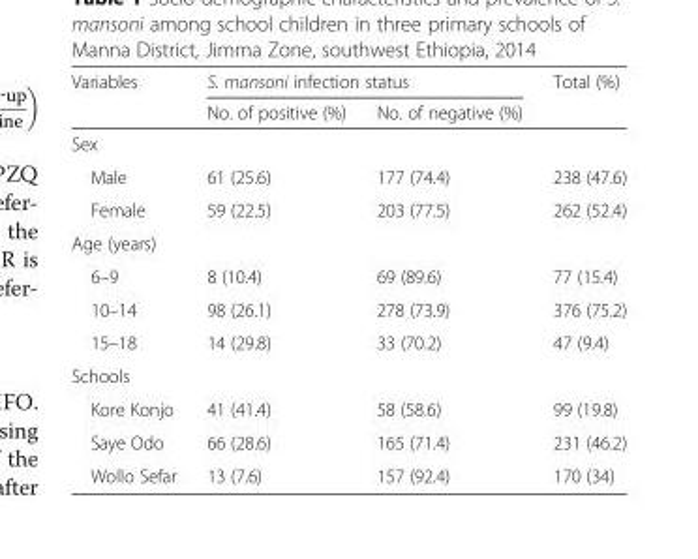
<table><thead><tr><td rowspan="2">Variables</td><td colspan="2">S. mansoni infection status</td><td rowspan="2">Total (%)</td></tr><tr><td>No. of positive (%)</td><td>No. of negative (%)</td></tr></thead><tbody><tr><td colspan="4">Sex</td></tr><tr><td>Male</td><td>61 (25.6)</td><td>177 (74.4)</td><td>238 (47.6)</td></tr><tr><td>Female</td><td>59 (22.5)</td><td>203 (77.5)</td><td>262 (52.4)</td></tr><tr><td colspan="4">Age (years)</td></tr><tr><td>6–9</td><td>8 (10.4)</td><td>69 (89.6)</td><td>77 (15.4)</td></tr><tr><td>10–14</td><td>98 (26.1)</td><td>278 (73.9)</td><td>376 (75.2)</td></tr><tr><td>15–18</td><td>14 (29.8)</td><td>33 (70.2)</td><td>47 (9.4)</td></tr><tr><td colspan="4">Schools</td></tr><tr><td>Kore Konjo</td><td>41 (41.4)</td><td>58 (58.6)</td><td>99 (19.8)</td></tr><tr><td>Saye Odo</td><td>66 (28.6)</td><td>165 (71.4)</td><td>231 (46.2)</td></tr><tr><td>Wollo Sefar</td><td>13 (7.6)</td><td>157 (92.4)</td><td>170 (34)</td></tr></tbody></table>